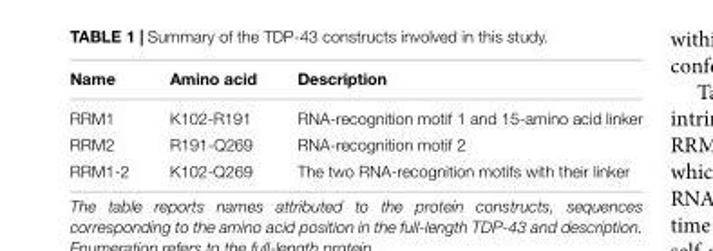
<table><thead><tr><td>Name</td><td>Amino acid</td><td>Description</td></tr></thead><tbody><tr><td>RRM1</td><td>K102-R191</td><td>RNA-recognition motif 1 and 15-amino acid linker</td></tr><tr><td>RRM2</td><td>R191-Q269</td><td>RNA-recognition motif 2</td></tr><tr><td>RRM1-2</td><td>K102-Q269</td><td>The two RNA-recognition motifs with their linker</td></tr></tbody></table>